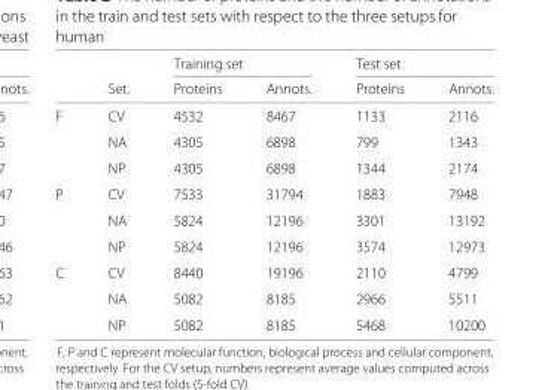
<table><thead><tr><td rowspan="2"></td><td rowspan="2">Set.</td><td colspan="2">Training set</td><td colspan="2">Test set</td></tr><tr><td>Proteins</td><td>Annots.</td><td>Proteins</td><td>Annots.</td></tr></thead><tbody><tr><td rowspan="3">F</td><td>CV</td><td>4532</td><td>8467</td><td>1133</td><td>2116</td></tr><tr><td>NA</td><td>4305</td><td>6898</td><td>799</td><td>1343</td></tr><tr><td>NP</td><td>4305</td><td>6898</td><td>1344</td><td>2174</td></tr><tr><td rowspan="3">P</td><td>CV</td><td>7533</td><td>31794</td><td>1883</td><td>7948</td></tr><tr><td>NA</td><td>5824</td><td>12196</td><td>3301</td><td>13192</td></tr><tr><td>NP</td><td>5824</td><td>12196</td><td>3574</td><td>12973</td></tr><tr><td rowspan="3">C</td><td>CV</td><td>8440</td><td>19196</td><td>2110</td><td>4799</td></tr><tr><td>NA</td><td>5082</td><td>8185</td><td>2966</td><td>5511</td></tr><tr><td>NP</td><td>5082</td><td>8185</td><td>5468</td><td>10200</td></tr></tbody></table>